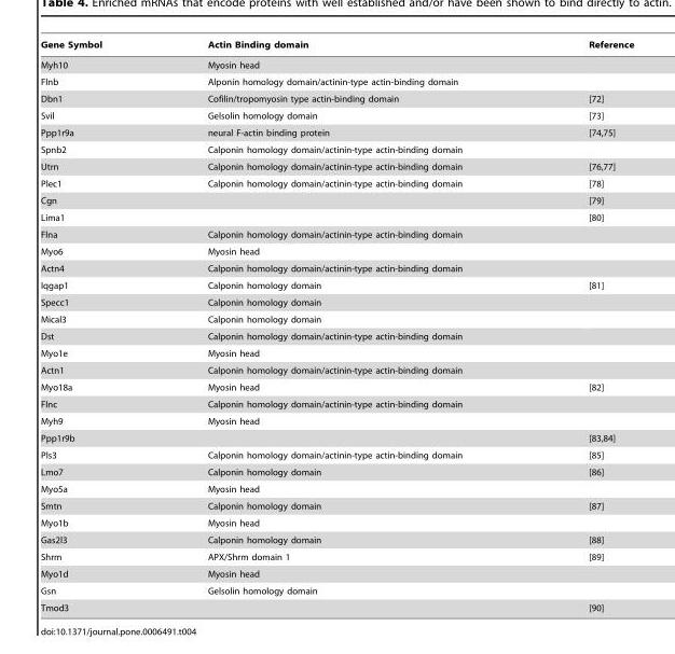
<table><thead><tr><td>Gene Symbol</td><td>Actin Binding domain</td><td>Reference</td></tr></thead><tbody><tr><td>Myh10</td><td>Myosin head</td><td></td></tr><tr><td>Flnb</td><td>Alponin homology domain/actinin-type actin-binding domain</td><td></td></tr><tr><td>Dbn1</td><td>Cofilin/tropomyosin type actin-binding domain</td><td>[72]</td></tr><tr><td>Svil</td><td>Gelsolin homology domain</td><td>[73]</td></tr><tr><td>Ppp1r9a</td><td>neural F-actin binding protein</td><td>[74,75]</td></tr><tr><td>Spnb2</td><td>Calponin homology domain/actinin-type actin-binding domain</td><td></td></tr><tr><td>Utrn</td><td>Calponin homology domain/actinin-type actin-binding domain</td><td>[76,77]</td></tr><tr><td>Plec1</td><td>Calponin homology domain/actinin-type actin-binding domain</td><td>[78]</td></tr><tr><td>Cgn</td><td></td><td>[79]</td></tr><tr><td>Lima1</td><td></td><td>[80]</td></tr><tr><td>Flna</td><td>Calponin homology domain/actinin-type actin-binding domain</td><td></td></tr><tr><td>Myo6</td><td>Myosin head</td><td></td></tr><tr><td>Actn4</td><td>Calponin homology domain/actinin-type actin-binding domain</td><td></td></tr><tr><td>Iqgap1</td><td>Calponin homology domain</td><td>[81]</td></tr><tr><td>Specc1</td><td>Calponin homology domain</td><td></td></tr><tr><td>Mical3</td><td>Calponin homology domain</td><td></td></tr><tr><td>Dst</td><td>Calponin homology domain/actinin-type actin-binding domain</td><td></td></tr><tr><td>Myo1e</td><td>Myosin head</td><td></td></tr><tr><td>Actn1</td><td>Calponin homology domain/actinin-type actin-binding domain</td><td></td></tr><tr><td>Myo18a</td><td>Myosin head</td><td>[82]</td></tr><tr><td>Flnc</td><td>Calponin homology domain/actinin-type actin-binding domain</td><td></td></tr><tr><td>Myh9</td><td>Myosin head</td><td></td></tr><tr><td>Ppp1r9b</td><td></td><td>[83,84]</td></tr><tr><td>Pls3</td><td>Calponin homology domain/actinin-type actin-binding domain</td><td>[85]</td></tr><tr><td>Lmo7</td><td>Calponin homology domain</td><td>[86]</td></tr><tr><td>Myo5a</td><td>Myosin head</td><td></td></tr><tr><td>Smtn</td><td>Calponin homology domain</td><td>[87]</td></tr><tr><td>Myo1b</td><td>Myosin head</td><td></td></tr><tr><td>Gas2l3</td><td>Calponin homology domain</td><td>[88]</td></tr><tr><td>Shrm</td><td>APX/Shrm domain 1</td><td>[89]</td></tr><tr><td>Myo1d</td><td>Myosin head</td><td></td></tr><tr><td>Gsn</td><td>Gelsolin homology domain</td><td></td></tr><tr><td>Tmod3</td><td></td><td>[90]</td></tr></tbody></table>